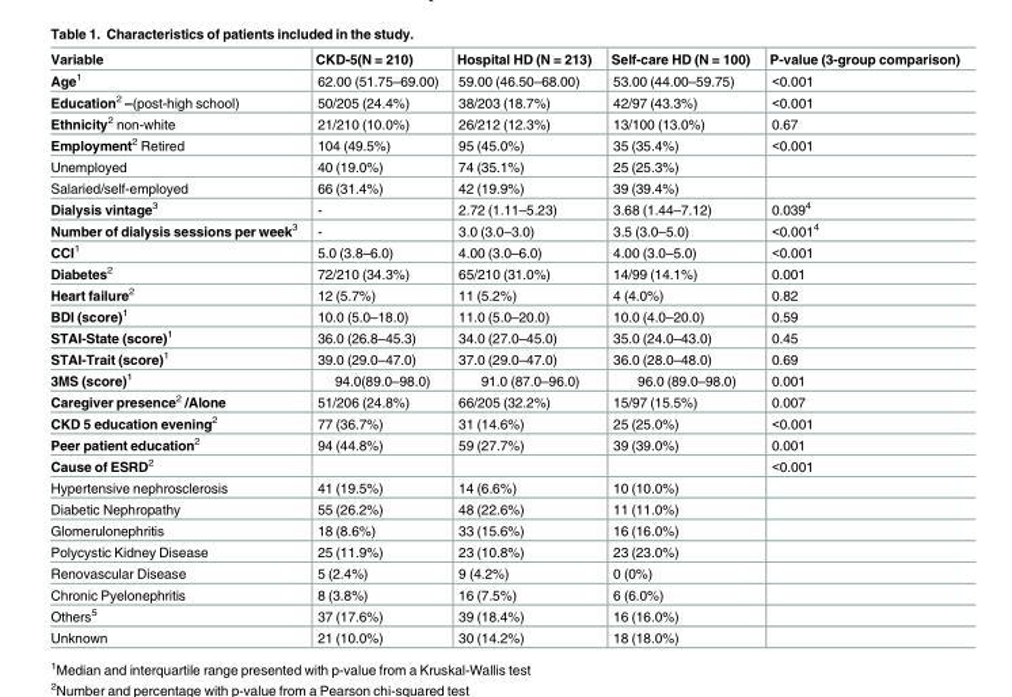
<table><thead><tr><td>Variable</td><td>CKD-5(N = 210)</td><td>Hospital HD (N = 213)</td><td>Self-care HD (N = 100)</td><td>P-value (3-group comparison)</td></tr></thead><tbody><tr><td>Age<sup>1</sup></td><td>62.00 (51.75–69.00)</td><td>59.00 (46.50–68.00)</td><td>53.00 (44.00–59.75)</td><td>&lt;0.001</td></tr><tr><td>Education<sup>2</sup> –(post-high school)</td><td>50/205 (24.4%)</td><td>38/203 (18.7%)</td><td>42/97 (43.3%)</td><td>&lt;0.001</td></tr><tr><td>Ethnicity<sup>2</sup> non-white</td><td>21/210 (10.0%)</td><td>26/212 (12.3%)</td><td>13/100 (13.0%)</td><td>0.67</td></tr><tr><td>Employment<sup>2</sup> Retired</td><td>104 (49.5%)</td><td>95 (45.0%)</td><td>35 (35.4%)</td><td>&lt;0.001</td></tr><tr><td>Unemployed</td><td>40 (19.0%)</td><td>74 (35.1%)</td><td>25 (25.3%)</td><td></td></tr><tr><td>Salaried/self-employed</td><td>66 (31.4%)</td><td>42 (19.9%)</td><td>39 (39.4%)</td><td></td></tr><tr><td>Dialysis vintage<sup>3</sup></td><td>-</td><td>2.72 (1.11–5.23)</td><td>3.68 (1.44–7.12)</td><td>0.039<sup>4</sup></td></tr><tr><td>Number of dialysis sessions per week<sup>3</sup></td><td>-</td><td>3.0 (3.0–3.0)</td><td>3.5 (3.0–5.0)</td><td>&lt;0.001<sup>4</sup></td></tr><tr><td>CCI<sup>1</sup></td><td>5.0 (3.8–6.0)</td><td>4.00 (3.0–6.0)</td><td>4.00 (3.0–5.0)</td><td>&lt;0.001</td></tr><tr><td>Diabetes<sup>2</sup></td><td>72/210 (34.3%)</td><td>65/210 (31.0%)</td><td>14/99 (14.1%)</td><td>0.001</td></tr><tr><td>Heart failure<sup>2</sup></td><td>12 (5.7%)</td><td>11 (5.2%)</td><td>4 (4.0%)</td><td>0.82</td></tr><tr><td>BDI (score)<sup>1</sup></td><td>10.0 (5.0–18.0)</td><td>11.0 (5.0–20.0)</td><td>10.0 (4.0–20.0)</td><td>0.59</td></tr><tr><td>STAI-State (score)<sup>1</sup></td><td>36.0 (26.8–45.3)</td><td>34.0 (27.0–45.0)</td><td>35.0 (24.0–43.0)</td><td>0.45</td></tr><tr><td>STAI-Trait (score)<sup>1</sup></td><td>39.0 (29.0–47.0)</td><td>37.0 (29.0–47.0)</td><td>36.0 (28.0–48.0)</td><td>0.69</td></tr><tr><td>3MS (score)<sup>1</sup></td><td>94.0(89.0–98.0)</td><td>91.0 (87.0–96.0)</td><td>96.0 (89.0–98.0)</td><td>0.001</td></tr><tr><td>Caregiver presence<sup>2</sup> /Alone</td><td>51/206 (24.8%)</td><td>66/205 (32.2%)</td><td>15/97 (15.5%)</td><td>0.007</td></tr><tr><td>CKD 5 education evening<sup>2</sup></td><td>77 (36.7%)</td><td>31 (14.6%)</td><td>25 (25.0%)</td><td>&lt;0.001</td></tr><tr><td>Peer patient education<sup>2</sup></td><td>94 (44.8%)</td><td>59 (27.7%)</td><td>39 (39.0%)</td><td>0.001</td></tr><tr><td>Cause of ESRD<sup>2</sup></td><td></td><td></td><td></td><td>&lt;0.001</td></tr><tr><td>Hypertensive nephrosclerosis</td><td>41 (19.5%)</td><td>14 (6.6%)</td><td>10 (10.0%)</td><td></td></tr><tr><td>Diabetic Nephropathy</td><td>55 (26.2%)</td><td>48 (22.6%)</td><td>11 (11.0%)</td><td></td></tr><tr><td>Glomerulonephritis</td><td>18 (8.6%)</td><td>33 (15.6%)</td><td>16 (16.0%)</td><td></td></tr><tr><td>Polycystic Kidney Disease</td><td>25 (11.9%)</td><td>23 (10.8%)</td><td>23 (23.0%)</td><td></td></tr><tr><td>Renovascular Disease</td><td>5 (2.4%)</td><td>9 (4.2%)</td><td>0 (0%)</td><td></td></tr><tr><td>Chronic Pyelonephritis</td><td>8 (3.8%)</td><td>16 (7.5%)</td><td>6 (6.0%)</td><td></td></tr><tr><td>Others<sup>5</sup></td><td>37 (17.6%)</td><td>39 (18.4%)</td><td>16 (16.0%)</td><td></td></tr><tr><td>Unknown</td><td>21 (10.0%)</td><td>30 (14.2%)</td><td>18 (18.0%)</td><td></td></tr></tbody></table>